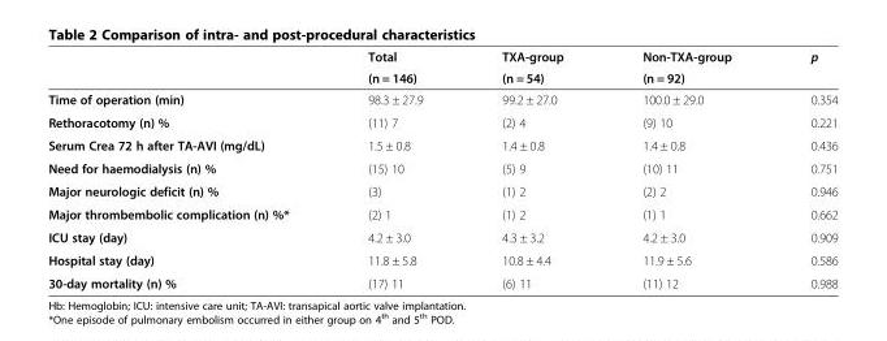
<table><thead><tr><td rowspan="2"></td><td rowspan="2">Total (n = 146)</td><td rowspan="2">TXA-group (n = 54)</td><td rowspan="2">Non-TXA-group (n = 92)</td><td rowspan="2">p</td></tr><tr></tr></thead><tbody><tr><td>Time of operation (min)</td><td>98.3 ± 27.9</td><td>99.2 ± 27.0</td><td>100.0 ± 29.0</td><td>0.354</td></tr><tr><td>Rethoracotomy (n) %</td><td>(11) 7</td><td>(2) 4</td><td>(9) 10</td><td>0.221</td></tr><tr><td>Serum Crea 72 h after TA-AVI (mg/dL)</td><td>1.5 ± 0.8</td><td>1.4 ± 0.8</td><td>1.4 ± 0.8</td><td>0.436</td></tr><tr><td>Need for haemodialysis (n) %</td><td>(15) 10</td><td>(5) 9</td><td>(10) 11</td><td>0.751</td></tr><tr><td>Major neurologic deficit (n) %</td><td>(3)</td><td>(1) 2</td><td>(2) 2</td><td>0.946</td></tr><tr><td>Major thrombembolic complication (n) %*</td><td>(2) 1</td><td>(1) 2</td><td>(1) 1</td><td>0.662</td></tr><tr><td>ICU stay (day)</td><td>4.2 ± 3.0</td><td>4.3 ± 3.2</td><td>4.2 ± 3.0</td><td>0.909</td></tr><tr><td>Hospital stay (day)</td><td>11.8 ± 5.8</td><td>10.8 ± 4.4</td><td>11.9 ± 5.6</td><td>0.586</td></tr><tr><td>30-day mortality (n) %</td><td>(17) 11</td><td>(6) 11</td><td>(11) 12</td><td>0.988</td></tr></tbody></table>